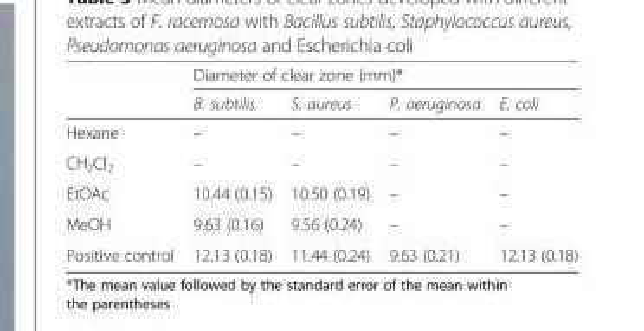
<table><thead><tr><td rowspan="2"></td><td colspan="4">Diameter of clear zone (mm)*</td></tr><tr><td>B. subtilis</td><td>S. aureus</td><td>P. aeruginosa</td><td>E. coli</td></tr></thead><tbody><tr><td>Hexane</td><td>–</td><td>–</td><td>–</td><td>–</td></tr><tr><td>CH<sub>2</sub>Cl<sub>2</sub></td><td>–</td><td>–</td><td>–</td><td>–</td></tr><tr><td>EtOAc</td><td>10.44 (0.15)</td><td>10.50 (0.19)</td><td>–</td><td>–</td></tr><tr><td>MeOH</td><td>9.63 (0.16)</td><td>9.56 (0.24)</td><td>–</td><td>–</td></tr><tr><td>Positive control</td><td>12.13 (0.18)</td><td>11.44 (0.24)</td><td>9.63 (0.21)</td><td>12.13 (0.18)</td></tr></tbody></table>